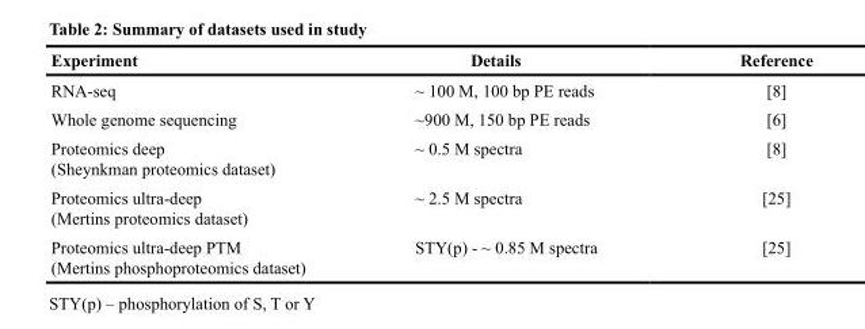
<table><thead><tr><td>Experiment</td><td>Details</td><td>Reference</td></tr></thead><tbody><tr><td>RNA-seq</td><td>~ 100 M, 100 bp PE reads</td><td>[8]</td></tr><tr><td>Whole genome sequencing</td><td>~900 M, 150 bp PE reads</td><td>[6]</td></tr><tr><td>Proteomics deep (Sheynkman proteomics dataset)</td><td>~ 0.5 M spectra</td><td>[8]</td></tr><tr><td>Proteomics ultra-deep (Mertins proteomics dataset)</td><td>~ 2.5 M spectra</td><td>[25]</td></tr><tr><td>Proteomics ultra-deep PTM (Mertins phosphoproteomics dataset)</td><td>STY(p) - ~ 0.85 M spectra</td><td>[25]</td></tr></tbody></table>